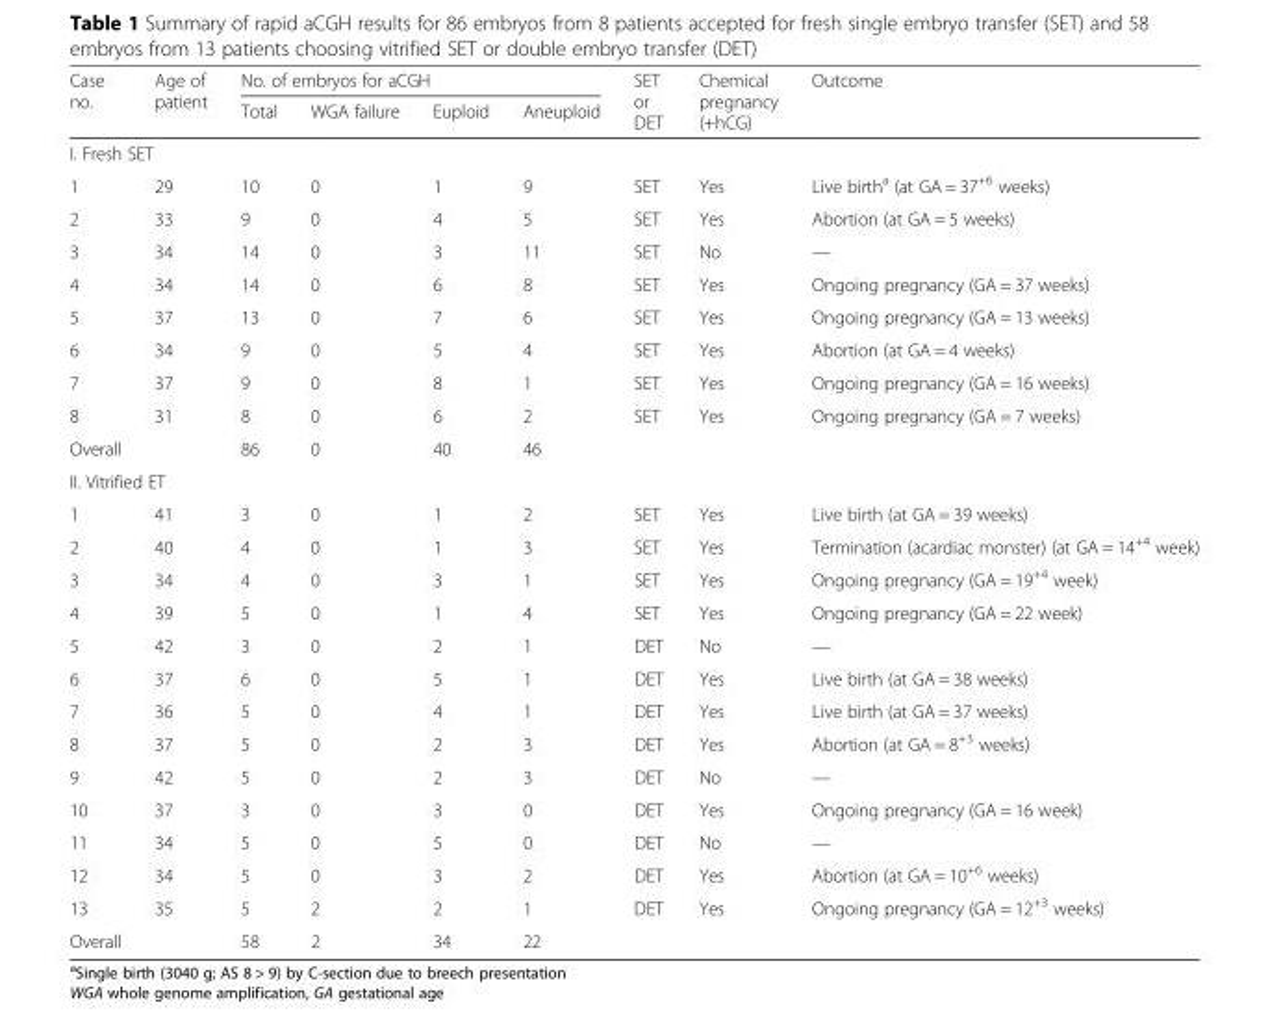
<table><thead><tr><td rowspan="2">Case no.</td><td rowspan="2">Age of patient</td><td colspan="4">No. of embryos for aCGH</td><td rowspan="2">SET or DET</td><td rowspan="2">Chemical pregnancy (+hCG)</td><td rowspan="2">Outcome</td></tr><tr><td>Total</td><td>WGA failure</td><td>Euploid</td><td>Aneuploid</td></tr></thead><tbody><tr><td colspan="9">I. Fresh SET</td></tr><tr><td>1</td><td>29</td><td>10</td><td>0</td><td>1</td><td>9</td><td>SET</td><td>Yes</td><td>Live birth<sup>a</sup> (at GA = 37<sup>+6</sup> weeks)</td></tr><tr><td>2</td><td>33</td><td>9</td><td>0</td><td>4</td><td>5</td><td>SET</td><td>Yes</td><td>Abortion (at GA = 5 weeks)</td></tr><tr><td>3</td><td>34</td><td>14</td><td>0</td><td>3</td><td>11</td><td>SET</td><td>No</td><td>—</td></tr><tr><td>4</td><td>34</td><td>14</td><td>0</td><td>6</td><td>8</td><td>SET</td><td>Yes</td><td>Ongoing pregnancy (GA = 37 weeks)</td></tr><tr><td>5</td><td>37</td><td>13</td><td>0</td><td>7</td><td>6</td><td>SET</td><td>Yes</td><td>Ongoing pregnancy (GA = 13 weeks)</td></tr><tr><td>6</td><td>34</td><td>9</td><td>0</td><td>5</td><td>4</td><td>SET</td><td>Yes</td><td>Abortion (at GA = 4 weeks)</td></tr><tr><td>7</td><td>37</td><td>9</td><td>0</td><td>8</td><td>1</td><td>SET</td><td>Yes</td><td>Ongoing pregnancy (GA = 16 weeks)</td></tr><tr><td>8</td><td>31</td><td>8</td><td>0</td><td>6</td><td>2</td><td>SET</td><td>Yes</td><td>Ongoing pregnancy (GA = 7 weeks)</td></tr><tr><td>Overall</td><td></td><td>86</td><td>0</td><td>40</td><td>46</td><td></td><td></td><td></td></tr><tr><td colspan="9">II. Vitrified ET</td></tr><tr><td>1</td><td>41</td><td>3</td><td>0</td><td>1</td><td>2</td><td>SET</td><td>Yes</td><td>Live birth (at GA = 39 weeks)</td></tr><tr><td>2</td><td>40</td><td>4</td><td>0</td><td>1</td><td>3</td><td>SET</td><td>Yes</td><td>Termination (acardiac monster) (at GA = 14<sup>+4</sup> week)</td></tr><tr><td>3</td><td>34</td><td>4</td><td>0</td><td>3</td><td>1</td><td>SET</td><td>Yes</td><td>Ongoing pregnancy (GA = 19<sup>+4</sup> week)</td></tr><tr><td>4</td><td>39</td><td>5</td><td>0</td><td>1</td><td>4</td><td>SET</td><td>Yes</td><td>Ongoing pregnancy (GA = 22 week)</td></tr><tr><td>5</td><td>42</td><td>3</td><td>0</td><td>2</td><td>1</td><td>DET</td><td>No</td><td>—</td></tr><tr><td>6</td><td>37</td><td>6</td><td>0</td><td>5</td><td>1</td><td>DET</td><td>Yes</td><td>Live birth (at GA = 38 weeks)</td></tr><tr><td>7</td><td>36</td><td>5</td><td>0</td><td>4</td><td>1</td><td>DET</td><td>Yes</td><td>Live birth (at GA = 37 weeks)</td></tr><tr><td>8</td><td>37</td><td>5</td><td>0</td><td>2</td><td>3</td><td>DET</td><td>Yes</td><td>Abortion (at GA = 8<sup>+3</sup> weeks)</td></tr><tr><td>9</td><td>42</td><td>5</td><td>0</td><td>2</td><td>3</td><td>DET</td><td>No</td><td>—</td></tr><tr><td>10</td><td>37</td><td>3</td><td>0</td><td>3</td><td>0</td><td>DET</td><td>Yes</td><td>Ongoing pregnancy (GA = 16 week)</td></tr><tr><td>11</td><td>34</td><td>5</td><td>0</td><td>5</td><td>0</td><td>DET</td><td>No</td><td>—</td></tr><tr><td>12</td><td>34</td><td>5</td><td>0</td><td>3</td><td>2</td><td>DET</td><td>Yes</td><td>Abortion (at GA = 10<sup>+6</sup> weeks)</td></tr><tr><td>13</td><td>35</td><td>5</td><td>2</td><td>2</td><td>1</td><td>DET</td><td>Yes</td><td>Ongoing pregnancy (GA = 12<sup>+3</sup> weeks)</td></tr><tr><td>Overall</td><td></td><td>58</td><td>2</td><td>34</td><td>22</td><td></td><td></td><td></td></tr></tbody></table>